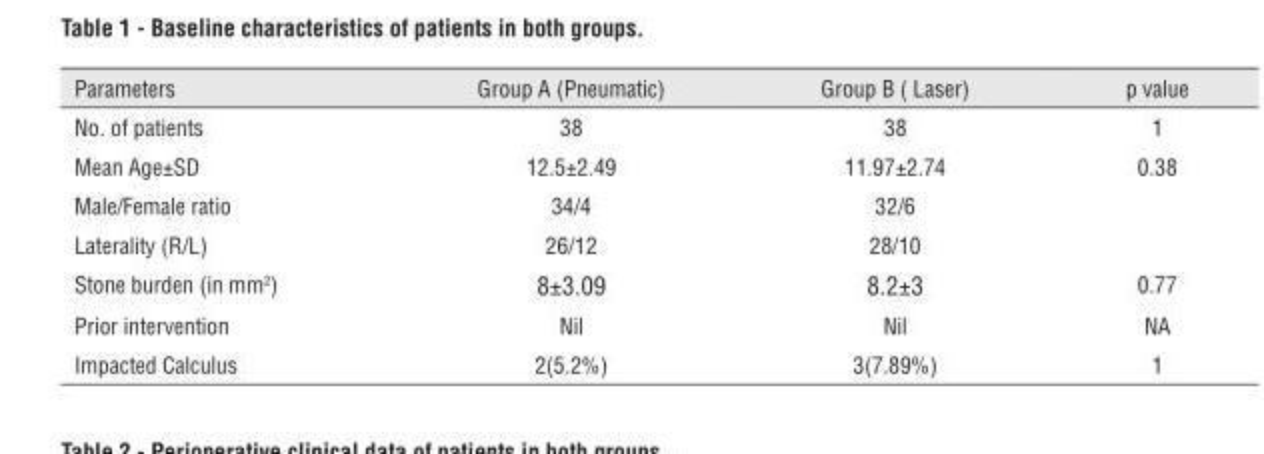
<table><thead><tr><td>Parameters</td><td>Group A (Pneumatic)</td><td>Group B ( Laser)</td><td>p value</td></tr></thead><tbody><tr><td>No. of patients</td><td>38</td><td>38</td><td>1</td></tr><tr><td>Mean Age±SD</td><td>12.5±2.49</td><td>11.97±2.74</td><td>0.38</td></tr><tr><td>Male/Female ratio</td><td>34/4</td><td>32/6</td><td></td></tr><tr><td>Laterality (R/L)</td><td>26/12</td><td>28/10</td><td></td></tr><tr><td>Stone burden (in mm<sup>2</sup>)</td><td>8±3.09</td><td>8.2±3</td><td>0.77</td></tr><tr><td>Prior intervention</td><td>Nil</td><td>Nil</td><td>NA</td></tr><tr><td>Impacted Calculus</td><td>2(5.2%)</td><td>3(7.89%)</td><td>1</td></tr></tbody></table>